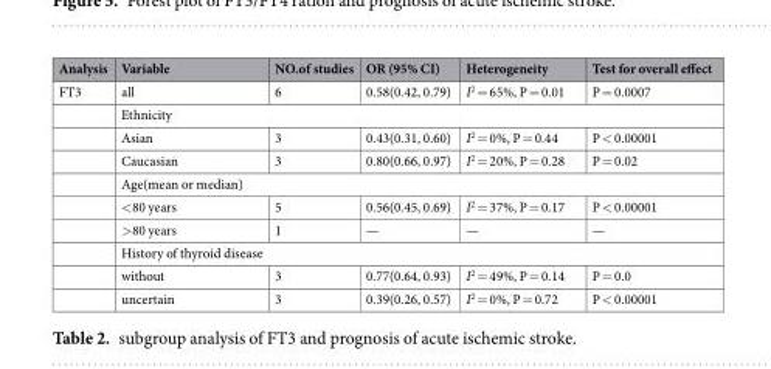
<table><thead><tr><td>Analysis</td><td>Variable</td><td>NO.of studies</td><td>OR (95% CI)</td><td>Heterogeneity</td><td>Test for overall effect</td></tr></thead><tbody><tr><td rowspan="10">FT3</td><td>all</td><td>6</td><td>0.58(0.42, 0.79)</td><td>I<sup>2</sup> = 65%, P = 0.01</td><td>P = 0.0007</td></tr><tr><td colspan="5">Ethnicity</td></tr><tr><td>Asian</td><td>3</td><td>0.43(0.31, 0.60)</td><td>I<sup>2</sup> = 0%, P = 0.44</td><td>P &lt; 0.00001</td></tr><tr><td>Caucasian</td><td>3</td><td>0.80(0.66, 0.97)</td><td>I<sup>2</sup> = 20%, P = 0.28</td><td>P = 0.02</td></tr><tr><td colspan="5">Age(mean or median)</td></tr><tr><td>&lt;80 years</td><td>5</td><td>0.56(0.45, 0.69)</td><td>I<sup>2</sup> = 37%, P = 0.17</td><td>P &lt; 0.00001</td></tr><tr><td>&gt;80 years</td><td>1</td><td>—</td><td>—</td><td>—</td></tr><tr><td colspan="5">History of thyroid disease</td></tr><tr><td>without</td><td>3</td><td>0.77(0.64, 0.93)</td><td>I<sup>2</sup> = 49%, P = 0.14</td><td>P = 0.0</td></tr><tr><td>uncertain</td><td>3</td><td>0.39(0.26, 0.57)</td><td>I<sup>2</sup> = 0%, P = 0.72</td><td>P &lt; 0.00001</td></tr></tbody></table>